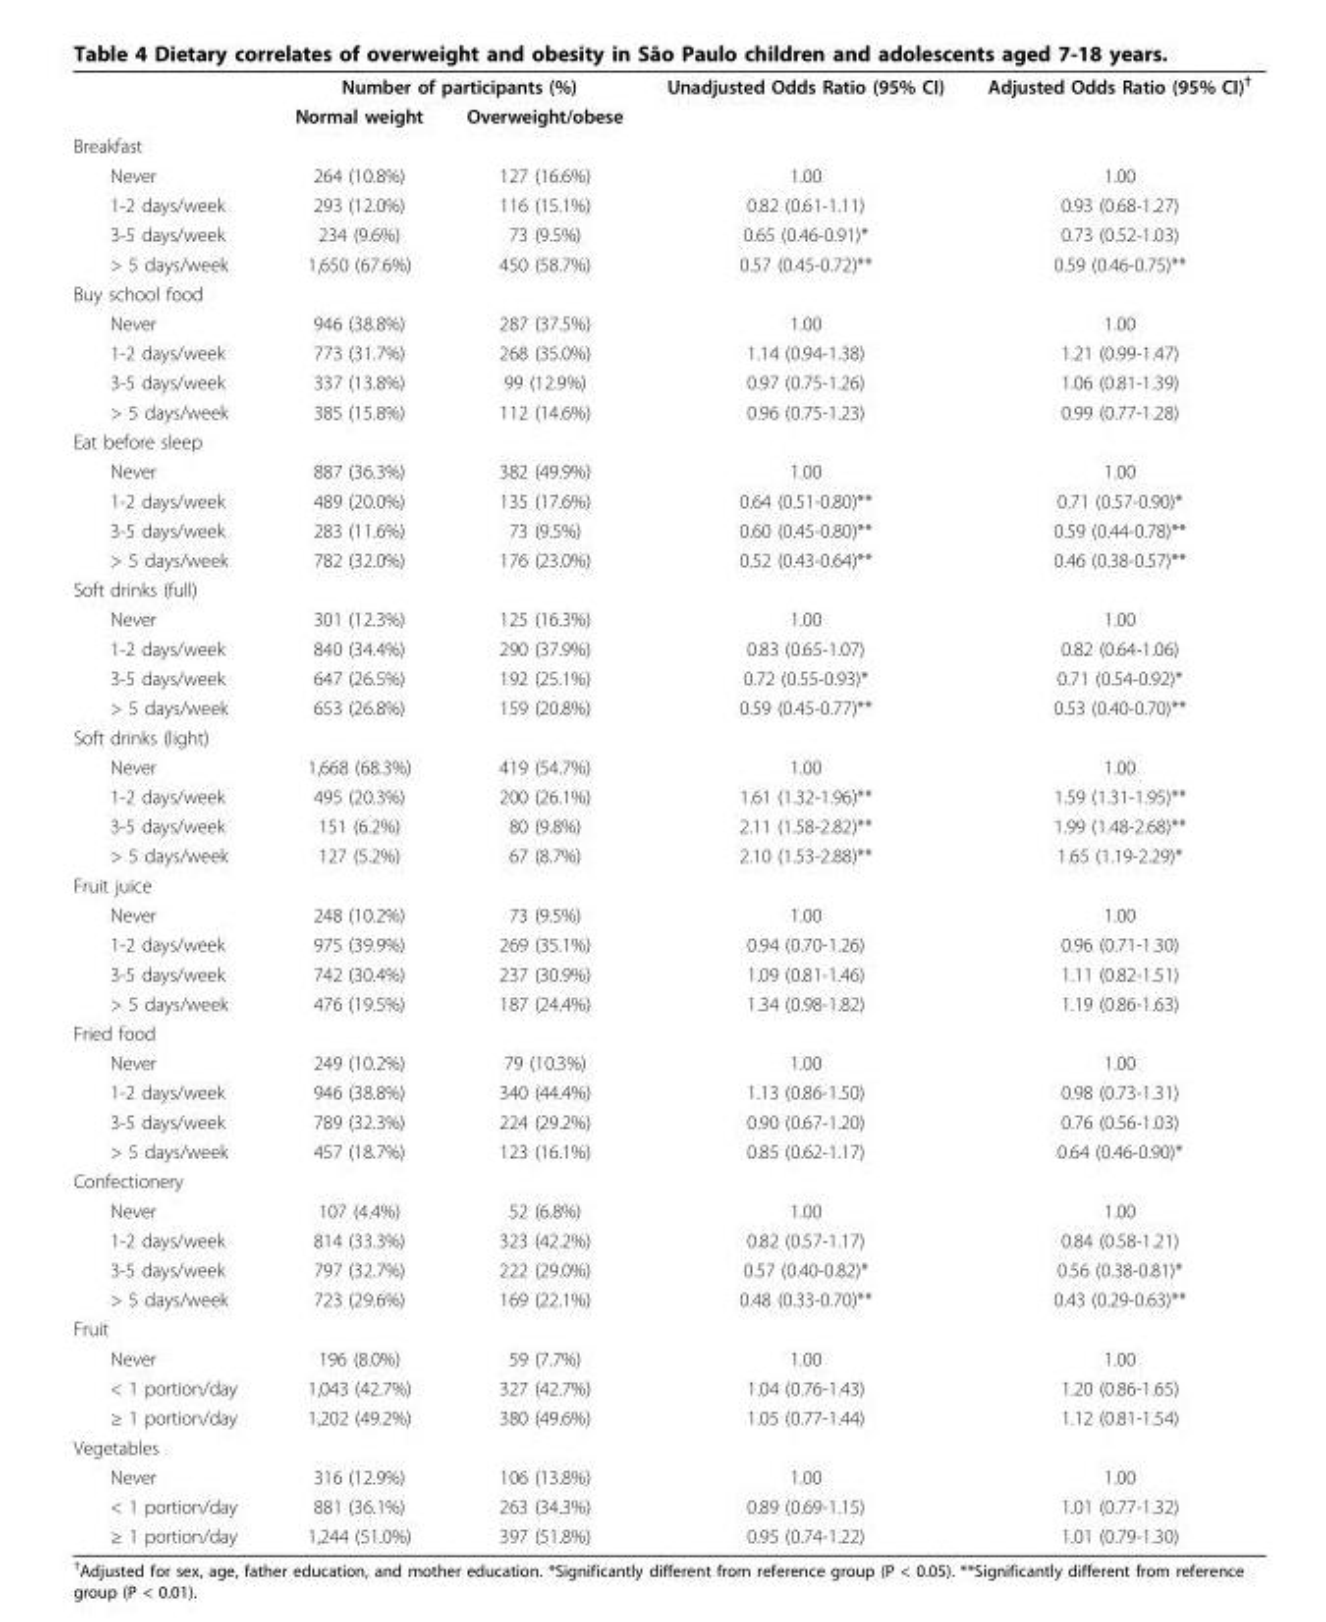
<table><thead><tr><td rowspan="2"></td><td colspan="2">Number of participants (%)</td><td rowspan="2">Unadjusted Odds Ratio (95% CI)</td><td rowspan="2">Adjusted Odds Ratio (95% CI)<sup>†</sup></td></tr><tr><td>Normal weight</td><td>Overweight/obese</td></tr></thead><tbody><tr><td colspan="5">Breakfast</td></tr><tr><td>Never</td><td>264 (10.8%)</td><td>127 (16.6%)</td><td>1.00</td><td>1.00</td></tr><tr><td>1-2 days/week</td><td>293 (12.0%)</td><td>116 (15.1%)</td><td>0.82 (0.61-1.11)</td><td>0.93 (0.68-1.27)</td></tr><tr><td>3-5 days/week</td><td>234 (9.6%)</td><td>73 (9.5%)</td><td>0.65 (0.46-0.91)*</td><td>0.73 (0.52-1.03)</td></tr><tr><td>&gt; 5 days/week</td><td>1,650 (67.6%)</td><td>450 (58.7%)</td><td>0.57 (0.45-0.72)**</td><td>0.59 (0.46-0.75)**</td></tr><tr><td colspan="5">Buy school food</td></tr><tr><td>Never</td><td>946 (38.8%)</td><td>287 (37.5%)</td><td>1.00</td><td>1.00</td></tr><tr><td>1-2 days/week</td><td>773 (31.7%)</td><td>268 (35.0%)</td><td>1.14 (0.94-1.38)</td><td>1.21 (0.99-1.47)</td></tr><tr><td>3-5 days/week</td><td>337 (13.8%)</td><td>99 (12.9%)</td><td>0.97 (0.75-1.26)</td><td>1.06 (0.81-1.39)</td></tr><tr><td>&gt; 5 days/week</td><td>385 (15.8%)</td><td>112 (14.6%)</td><td>0.96 (0.75-1.23)</td><td>0.99 (0.77-1.28)</td></tr><tr><td colspan="5">Eat before sleep</td></tr><tr><td>Never</td><td>887 (36.3%)</td><td>382 (49.9%)</td><td>1.00</td><td>1.00</td></tr><tr><td>1-2 days/week</td><td>489 (20.0%)</td><td>135 (17.6%)</td><td>0.64 (0.51-0.80)**</td><td>0.71 (0.57-0.90)*</td></tr><tr><td>3-5 days/week</td><td>283 (11.6%)</td><td>73 (9.5%)</td><td>0.60 (0.45-0.80)**</td><td>0.59 (0.44-0.78)**</td></tr><tr><td>&gt; 5 days/week</td><td>782 (32.0%)</td><td>176 (23.0%)</td><td>0.52 (0.43-0.64)**</td><td>0.46 (0.38-0.57)**</td></tr><tr><td colspan="5">Soft drinks (full)</td></tr><tr><td>Never</td><td>301 (12.3%)</td><td>125 (16.3%)</td><td>1.00</td><td>1.00</td></tr><tr><td>1-2 days/week</td><td>840 (34.4%)</td><td>290 (37.9%)</td><td>0.83 (0.65-1.07)</td><td>0.82 (0.64-1.06)</td></tr><tr><td>3-5 days/week</td><td>647 (26.5%)</td><td>192 (25.1%)</td><td>0.72 (0.55-0.93)*</td><td>0.71 (0.54-0.92)*</td></tr><tr><td>&gt; 5 days/week</td><td>653 (26.8%)</td><td>159 (20.8%)</td><td>0.59 (0.45-0.77)**</td><td>0.53 (0.40-0.70)**</td></tr><tr><td colspan="5">Soft drinks (light)</td></tr><tr><td>Never</td><td>1,668 (68.3%)</td><td>419 (54.7%)</td><td>1.00</td><td>1.00</td></tr><tr><td>1-2 days/week</td><td>495 (20.3%)</td><td>200 (26.1%)</td><td>1.61 (1.32-1.96)**</td><td>1.59 (1.31-1.95)**</td></tr><tr><td>3-5 days/week</td><td>151 (6.2%)</td><td>80 (9.8%)</td><td>2.11 (1.58-2.82)**</td><td>1.99 (1.48-2.68)**</td></tr><tr><td>&gt; 5 days/week</td><td>127 (5.2%)</td><td>67 (8.7%)</td><td>2.10 (1.53-2.88)**</td><td>1.65 (1.19-2.29)*</td></tr><tr><td colspan="5">Fruit juice</td></tr><tr><td>Never</td><td>248 (10.2%)</td><td>73 (9.5%)</td><td>1.00</td><td>1.00</td></tr><tr><td>1-2 days/week</td><td>975 (39.9%)</td><td>269 (35.1%)</td><td>0.94 (0.70-1.26)</td><td>0.96 (0.71-1.30)</td></tr><tr><td>3-5 days/week</td><td>742 (30.4%)</td><td>237 (30.9%)</td><td>1.09 (0.81-1.46)</td><td>1.11 (0.82-1.51)</td></tr><tr><td>&gt; 5 days/week</td><td>476 (19.5%)</td><td>187 (24.4%)</td><td>1.34 (0.98-1.82)</td><td>1.19 (0.86-1.63)</td></tr><tr><td colspan="5">Fried food</td></tr><tr><td>Never</td><td>249 (10.2%)</td><td>79 (10.3%)</td><td>1.00</td><td>1.00</td></tr><tr><td>1-2 days/week</td><td>946 (38.8%)</td><td>340 (44.4%)</td><td>1.13 (0.86-1.50)</td><td>0.98 (0.73-1.31)</td></tr><tr><td>3-5 days/week</td><td>789 (32.3%)</td><td>224 (29.2%)</td><td>0.90 (0.67-1.20)</td><td>0.76 (0.56-1.03)</td></tr><tr><td>&gt; 5 days/week</td><td>457 (18.7%)</td><td>123 (16.1%)</td><td>0.85 (0.62-1.17)</td><td>0.64 (0.46-0.90)*</td></tr><tr><td colspan="5">Confectionery</td></tr><tr><td>Never</td><td>107 (4.4%)</td><td>52 (6.8%)</td><td>1.00</td><td>1.00</td></tr><tr><td>1-2 days/week</td><td>814 (33.3%)</td><td>323 (42.2%)</td><td>0.82 (0.57-1.17)</td><td>0.84 (0.58-1.21)</td></tr><tr><td>3-5 days/week</td><td>797 (32.7%)</td><td>222 (29.0%)</td><td>0.57 (0.40-0.82)*</td><td>0.56 (0.38-0.81)*</td></tr><tr><td>&gt; 5 days/week</td><td>723 (29.6%)</td><td>169 (22.1%)</td><td>0.48 (0.33-0.70)**</td><td>0.43 (0.29-0.63)**</td></tr><tr><td colspan="5">Fruit</td></tr><tr><td>Never</td><td>196 (8.0%)</td><td>59 (7.7%)</td><td>1.00</td><td>1.00</td></tr><tr><td>&lt; 1 portion/day</td><td>1,043 (42.7%)</td><td>327 (42.7%)</td><td>1.04 (0.76-1.43)</td><td>1.20 (0.86-1.65)</td></tr><tr><td>≥ 1 portion/day</td><td>1,202 (49.2%)</td><td>380 (49.6%)</td><td>1.05 (0.77-1.44)</td><td>1.12 (0.81-1.54)</td></tr><tr><td colspan="5">Vegetables</td></tr><tr><td>Never</td><td>316 (12.9%)</td><td>106 (13.8%)</td><td>1.00</td><td>1.00</td></tr><tr><td>&lt; 1 portion/day</td><td>881 (36.1%)</td><td>263 (34.3%)</td><td>0.89 (0.69-1.15)</td><td>1.01 (0.77-1.32)</td></tr><tr><td>≥ 1 portion/day</td><td>1,244 (51.0%)</td><td>397 (51.8%)</td><td>0.95 (0.74-1.22)</td><td>1.01 (0.79-1.30)</td></tr></tbody></table>